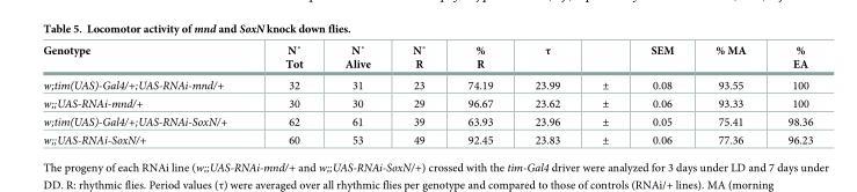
<table><thead><tr><td>Genotype</td><td>N˚ Tot</td><td>N˚ Alive</td><td>N˚ R</td><td>% R</td><td>τ</td><td></td><td>SEM</td><td>% MA</td><td>% EA</td></tr></thead><tbody><tr><td>w;tim(UAS)-Gal4/+;UAS-RNAi-mnd/+</td><td>32</td><td>31</td><td>23</td><td>74.19</td><td>23.99</td><td>±</td><td>0.08</td><td>93.55</td><td>100</td></tr><tr><td>w;;UAS-RNAi-mnd/+</td><td>30</td><td>30</td><td>29</td><td>96.67</td><td>23.62</td><td>±</td><td>0.06</td><td>93.33</td><td>100</td></tr><tr><td>w;tim(UAS)-Gal4/+;UAS-RNAi-SoxN/+</td><td>62</td><td>61</td><td>39</td><td>63.93</td><td>23.96</td><td>±</td><td>0.05</td><td>75.41</td><td>98.36</td></tr><tr><td>w;;UAS-RNAi-SoxN/+</td><td>60</td><td>53</td><td>49</td><td>92.45</td><td>23.83</td><td>±</td><td>0.06</td><td>77.36</td><td>96.23</td></tr></tbody></table>